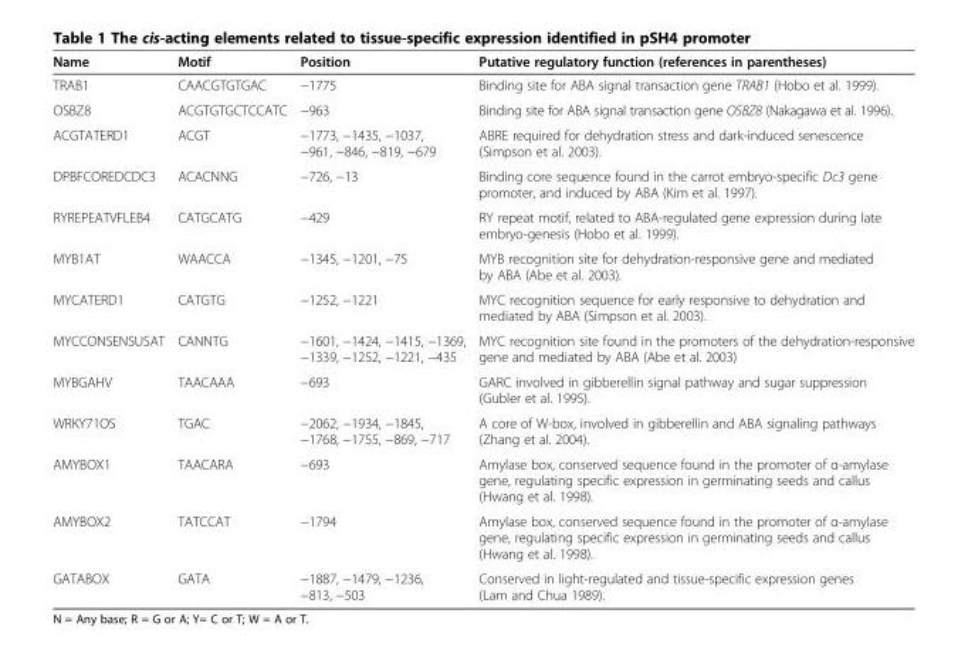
<table><thead><tr><td>Name</td><td>Motif</td><td>Position</td><td>Putative regulatory function (references in parentheses)</td></tr></thead><tbody><tr><td>TRAB1</td><td>CAACGTGTGAC</td><td>−1775</td><td>Binding site for ABA signal transaction gene TRAB1 (Hobo et al. 1999).</td></tr><tr><td>OSBZ8</td><td>ACGTGTGCTCCATC</td><td>−963</td><td>Binding site for ABA signal transaction gene OSBZ8 (Nakagawa et al. 1996).</td></tr><tr><td>ACGTATERD1</td><td>ACGT</td><td>−1773, −1435, −1037, −961, −846, −819, −679</td><td>ABRE required for dehydration stress and dark-induced senescence (Simpson et al. 2003).</td></tr><tr><td>DPBFCOREDCDC3</td><td>ACACNNG</td><td>−726, −13</td><td>Binding core sequence found in the carrot embryo-specific Dc3 gene promoter, and induced by ABA (Kim et al. 1997).</td></tr><tr><td>RYREPEATVFLEB4</td><td>CATGCATG</td><td>−429</td><td>RY repeat motif, related to ABA-regulated gene expression during late embryo-genesis (Hobo et al. 1999).</td></tr><tr><td>MYB1AT</td><td>WAACCA</td><td>−1345, −1201, −75</td><td>MYB recognition site for dehydration-responsive gene and mediated by ABA (Abe et al. 2003).</td></tr><tr><td>MYCATERD1</td><td>CATGTG</td><td>−1252, −1221</td><td>MYC recognition sequence for early responsive to dehydration and mediated by ABA (Simpson et al. 2003).</td></tr><tr><td>MYCCONSENSUSAT</td><td>CANNTG</td><td>−1601, −1424, −1415, −1369, −1339, −1252, −1221, −435</td><td>MYC recognition site found in the promoters of the dehydration-responsive gene and mediated by ABA (Abe et al. 2003)</td></tr><tr><td>MYBGAHV</td><td>TAACAAA</td><td>−693</td><td>GARC involved in gibberellin signal pathway and sugar suppression (Gubler et al. 1995).</td></tr><tr><td>WRKY71OS</td><td>TGAC</td><td>−2062, −1934, −1845, −1768, −1755, −869, −717</td><td>A core of W-box, involved in gibberellin and ABA signaling pathways (Zhang et al. 2004).</td></tr><tr><td>AMYBOX1</td><td>TAACARA</td><td>−693</td><td>Amylase box, conserved sequence found in the promoter of α-amylase gene, regulating specific expression in germinating seeds and callus (Hwang et al. 1998).</td></tr><tr><td>AMYBOX2</td><td>TATCCAT</td><td>−1794</td><td>Amylase box, conserved sequence found in the promoter of α-amylase gene, regulating specific expression in germinating seeds and callus (Hwang et al. 1998).</td></tr><tr><td>GATABOX</td><td>GATA</td><td>−1887, −1479, −1236, −813, −503</td><td>Conserved in light-regulated and tissue-specific expression genes (Lam and Chua 1989).</td></tr></tbody></table>